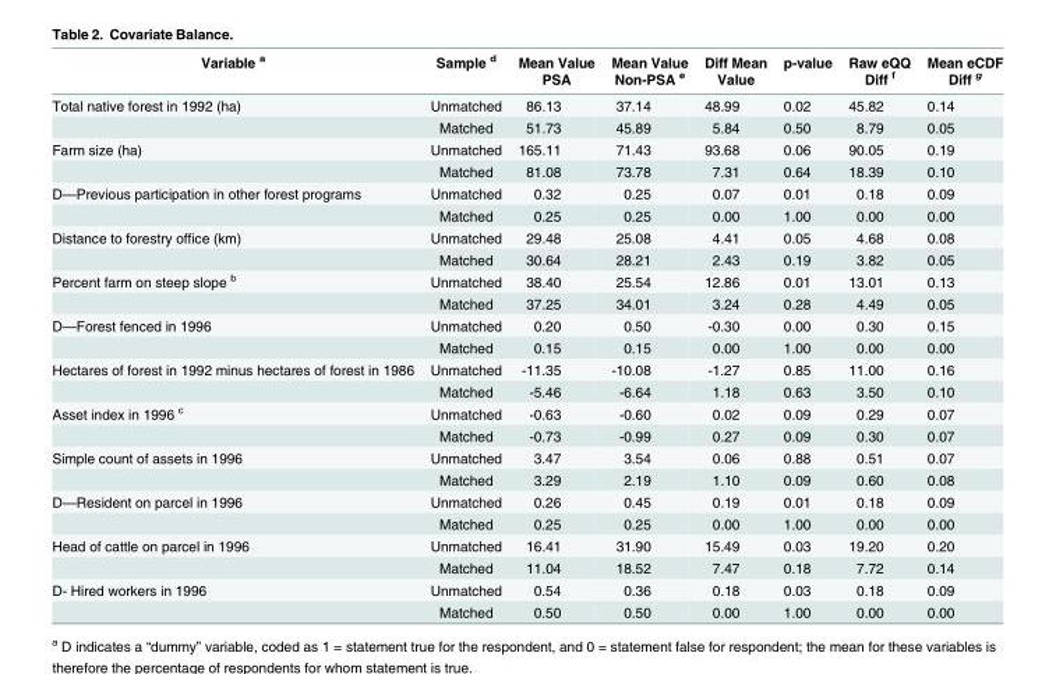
<table><thead><tr><td>Variable <sup>a</sup></td><td>Sample <sup>d</sup></td><td>Mean Value PSA</td><td>Mean Value Non-PSA <sup>e</sup></td><td>Diff Mean Value</td><td>p-value</td><td>Raw eQQ Diff <sup>f</sup></td><td>Mean eCDF Diff <sup>g</sup></td></tr></thead><tbody><tr><td rowspan="2">Total native forest in 1992 (ha)</td><td>Unmatched</td><td>86.13</td><td>37.14</td><td>48.99</td><td>0.02</td><td>45.82</td><td>0.14</td></tr><tr><td>Matched</td><td>51.73</td><td>45.89</td><td>5.84</td><td>0.50</td><td>8.79</td><td>0.05</td></tr><tr><td rowspan="2">Farm size (ha)</td><td>Unmatched</td><td>165.11</td><td>71.43</td><td>93.68</td><td>0.06</td><td>90.05</td><td>0.19</td></tr><tr><td>Matched</td><td>81.08</td><td>73.78</td><td>7.31</td><td>0.64</td><td>18.39</td><td>0.10</td></tr><tr><td rowspan="2">D—Previous participation in other forest programs</td><td>Unmatched</td><td>0.32</td><td>0.25</td><td>0.07</td><td>0.01</td><td>0.18</td><td>0.09</td></tr><tr><td>Matched</td><td>0.25</td><td>0.25</td><td>0.00</td><td>1.00</td><td>0.00</td><td>0.00</td></tr><tr><td rowspan="2">Distance to forestry office (km)</td><td>Unmatched</td><td>29.48</td><td>25.08</td><td>4.41</td><td>0.05</td><td>4.68</td><td>0.08</td></tr><tr><td>Matched</td><td>30.64</td><td>28.21</td><td>2.43</td><td>0.19</td><td>3.82</td><td>0.05</td></tr><tr><td rowspan="2">Percent farm on steep slope <sup>b</sup></td><td>Unmatched</td><td>38.40</td><td>25.54</td><td>12.86</td><td>0.01</td><td>13.01</td><td>0.13</td></tr><tr><td>Matched</td><td>37.25</td><td>34.01</td><td>3.24</td><td>0.28</td><td>4.49</td><td>0.05</td></tr><tr><td rowspan="2">D—Forest fenced in 1996</td><td>Unmatched</td><td>0.20</td><td>0.50</td><td>-0.30</td><td>0.00</td><td>0.30</td><td>0.15</td></tr><tr><td>Matched</td><td>0.15</td><td>0.15</td><td>0.00</td><td>1.00</td><td>0.00</td><td>0.00</td></tr><tr><td rowspan="2">Hectares of forest in 1992 minus hectares of forest in 1986</td><td>Unmatched</td><td>-11.35</td><td>-10.08</td><td>-1.27</td><td>0.85</td><td>11.00</td><td>0.16</td></tr><tr><td>Matched</td><td>-5.46</td><td>-6.64</td><td>1.18</td><td>0.63</td><td>3.50</td><td>0.10</td></tr><tr><td rowspan="2">Asset index in 1996 <sup>c</sup></td><td>Unmatched</td><td>-0.63</td><td>-0.60</td><td>0.02</td><td>0.09</td><td>0.29</td><td>0.07</td></tr><tr><td>Matched</td><td>-0.73</td><td>-0.99</td><td>0.27</td><td>0.09</td><td>0.30</td><td>0.07</td></tr><tr><td rowspan="2">Simple count of assets in 1996</td><td>Unmatched</td><td>3.47</td><td>3.54</td><td>0.06</td><td>0.88</td><td>0.51</td><td>0.07</td></tr><tr><td>Matched</td><td>3.29</td><td>2.19</td><td>1.10</td><td>0.09</td><td>0.60</td><td>0.08</td></tr><tr><td rowspan="2">D—Resident on parcel in 1996</td><td>Unmatched</td><td>0.26</td><td>0.45</td><td>0.19</td><td>0.01</td><td>0.18</td><td>0.09</td></tr><tr><td>Matched</td><td>0.25</td><td>0.25</td><td>0.00</td><td>1.00</td><td>0.00</td><td>0.00</td></tr><tr><td rowspan="2">Head of cattle on parcel in 1996</td><td>Unmatched</td><td>16.41</td><td>31.90</td><td>15.49</td><td>0.03</td><td>19.20</td><td>0.20</td></tr><tr><td>Matched</td><td>11.04</td><td>18.52</td><td>7.47</td><td>0.18</td><td>7.72</td><td>0.14</td></tr><tr><td rowspan="2">D- Hired workers in 1996</td><td>Unmatched</td><td>0.54</td><td>0.36</td><td>0.18</td><td>0.03</td><td>0.18</td><td>0.09</td></tr><tr><td>Matched</td><td>0.50</td><td>0.50</td><td>0.00</td><td>1.00</td><td>0.00</td><td>0.00</td></tr></tbody></table>